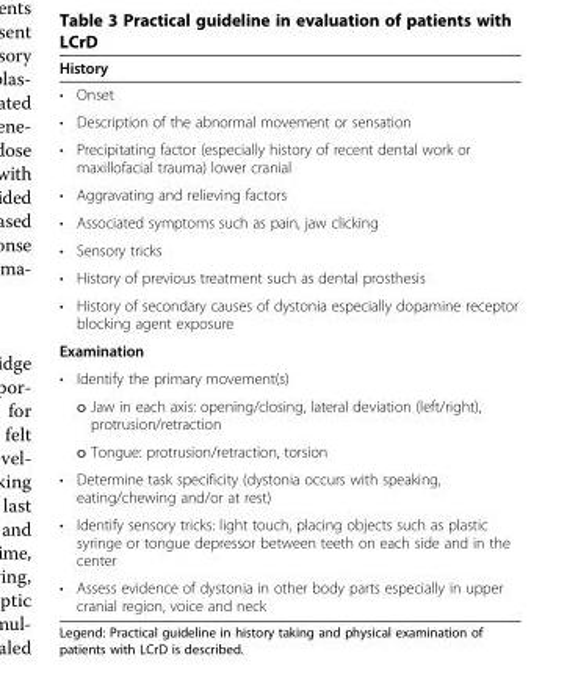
<table><thead><tr><td colspan="2">History</td></tr><tr><td>•</td><td>Onset</td></tr></thead><tbody><tr><td>•</td><td>Description of the abnormal movement or sensation</td></tr><tr><td>•</td><td>Precipitating factor (especially history of recent dental work or maxillofacial trauma) lower cranial</td></tr><tr><td>•</td><td>Aggravating and relieving factors</td></tr><tr><td>•</td><td>Associated symptoms such as pain, jaw clicking</td></tr><tr><td>•</td><td>Sensory tricks</td></tr><tr><td>•</td><td>History of previous treatment such as dental prosthesis</td></tr><tr><td>•</td><td>History of secondary causes of dystonia especially dopamine receptor blocking agent exposure</td></tr><tr><td colspan="2">Examination</td></tr><tr><td rowspan="3">•</td><td>Identify the primary movement(s)</td></tr><tr><td>o Jaw in each axis: opening/closing, lateral deviation (left/right), protrusion/retraction</td></tr><tr><td>o Tongue: protrusion/retraction, torsion</td></tr><tr><td>•</td><td>Determine task specificity (dystonia occurs with speaking, eating/chewing and/or at rest)</td></tr><tr><td>•</td><td>Identify sensory tricks: light touch, placing objects such as plastic syringe or tongue depressor between teeth on each side and in the center</td></tr><tr><td>•</td><td>Assess evidence of dystonia in other body parts especially in upper cranial region, voice and neck</td></tr></tbody></table>